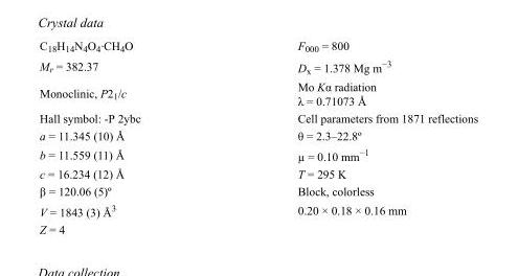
<table><tbody><tr><td>C<sub>18</sub>H<sub>14</sub>N<sub>4</sub>O<sub>4</sub>·CH<sub>4</sub>O</td><td>F000 = 800</td></tr><tr><td>M<sub>r</sub> = 382.37</td><td>D<sub>x</sub> = 1.378 Mg m<sup>−3</sup></td></tr><tr><td>Monoclinic, P2<sub>1</sub>/c</td><td>Mo Kα radiation λ = 0.71073 Å</td></tr><tr><td>Hall symbol: -P 2ybc</td><td>Cell parameters from 1871 reflections</td></tr><tr><td>a = 11.345 (10) Å</td><td>θ = 2.3–22.8º</td></tr><tr><td>b = 11.559 (11) Å</td><td>µ = 0.10 mm<sup>−1</sup></td></tr><tr><td>c = 16.234 (12) Å</td><td>T = 295 K</td></tr><tr><td>β = 120.06 (5)º</td><td>Block, colorless</td></tr><tr><td>V = 1843 (3) Å<sup>3</sup></td><td>0.20 × 0.18 × 0.16 mm</td></tr><tr><td>Z = 4</td><td></td></tr></tbody></table>